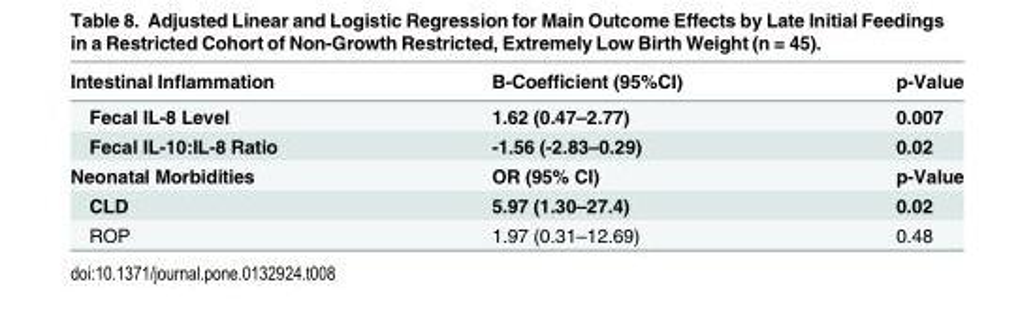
<table><thead><tr><td>Intestinal Inflammation</td><td>B-Coefficient (95%CI)</td><td>p-Value</td></tr></thead><tbody><tr><td>Fecal IL-8 Level</td><td>1.62 (0.47–2.77)</td><td>0.007</td></tr><tr><td>Fecal IL-10:IL-8 Ratio</td><td>-1.56 (-2.83–0.29)</td><td>0.02</td></tr><tr><td>Neonatal Morbidities</td><td>OR (95% CI)</td><td>p-Value</td></tr><tr><td>CLD</td><td>5.97 (1.30–27.4)</td><td>0.02</td></tr><tr><td>ROP</td><td>1.97 (0.31–12.69)</td><td>0.48</td></tr></tbody></table>